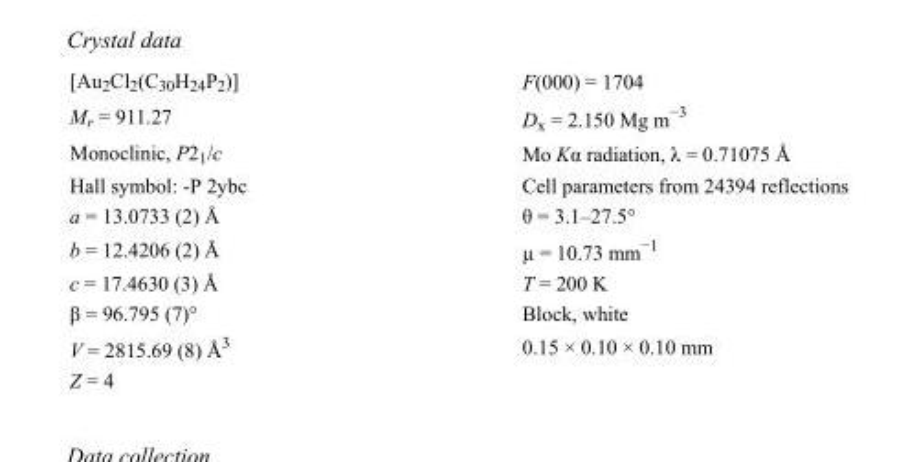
<table><tbody><tr><td>[Au<sub>2</sub>Cl<sub>2</sub>(C<sub>30</sub>H<sub>24</sub>P<sub>2</sub>)]</td><td>F(000) = 1704</td></tr><tr><td>M<sub>r</sub> = 911.27</td><td>D<sub>x</sub> = 2.150 Mg m<sup>−3</sup></td></tr><tr><td>Monoclinic, P2<sub>1</sub>/c</td><td>Mo Kα radiation, λ = 0.71075 Å</td></tr><tr><td>Hall symbol: -P 2ybc</td><td>Cell parameters from 24394 reflections</td></tr><tr><td>a = 13.0733 (2) Å</td><td>θ = 3.1–27.5°</td></tr><tr><td>b = 12.4206 (2) Å</td><td>µ = 10.73 mm<sup>−1</sup></td></tr><tr><td>c = 17.4630 (3) Å</td><td>T = 200 K</td></tr><tr><td>β = 96.795 (7)°</td><td>Block, white</td></tr><tr><td>V = 2815.69 (8) Å<sup>3</sup></td><td>0.15 × 0.10 × 0.10 mm</td></tr><tr><td>Z = 4</td><td></td></tr></tbody></table>